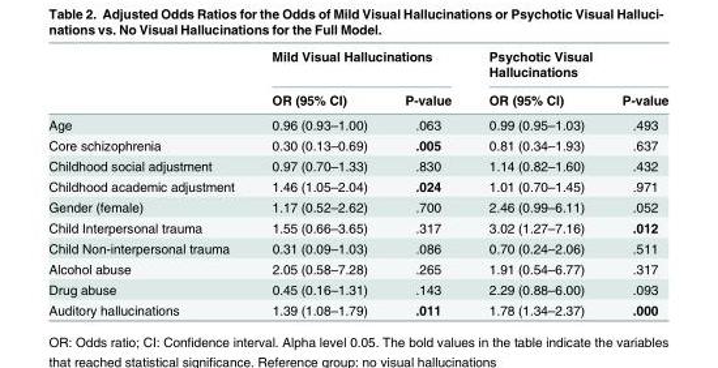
<table><thead><tr><td rowspan="2"></td><td colspan="2">Mild Visual Hallucinations</td><td colspan="2">Psychotic Visual Hallucinations</td></tr><tr><td>OR (95% CI)</td><td>P-value</td><td>OR (95% CI)</td><td>P-value</td></tr></thead><tbody><tr><td>Age</td><td>0.96 (0.93–1.00)</td><td>.063</td><td>0.99 (0.95–1.03)</td><td>.493</td></tr><tr><td>Core schizophrenia</td><td>0.30 (0.13–0.69)</td><td>.005</td><td>0.81 (0.34–1.93)</td><td>.637</td></tr><tr><td>Childhood social adjustment</td><td>0.97 (0.70–1.33)</td><td>.830</td><td>1.14 (0.82–1.60)</td><td>.432</td></tr><tr><td>Childhood academic adjustment</td><td>1.46 (1.05–2.04)</td><td>.024</td><td>1.01 (0.70–1.45)</td><td>.971</td></tr><tr><td>Gender (female)</td><td>1.17 (0.52–2.62)</td><td>.700</td><td>2.46 (0.99–6.11)</td><td>.052</td></tr><tr><td>Child Interpersonal trauma</td><td>1.55 (0.66–3.65)</td><td>.317</td><td>3.02 (1.27–7.16)</td><td>.012</td></tr><tr><td>Child Non-interpersonal trauma</td><td>0.31 (0.09–1.03)</td><td>.086</td><td>0.70 (0.24–2.06)</td><td>.511</td></tr><tr><td>Alcohol abuse</td><td>2.05 (0.58–7.28)</td><td>.265</td><td>1.91 (0.54–6.77)</td><td>.317</td></tr><tr><td>Drug abuse</td><td>0.45 (0.16–1.31)</td><td>.143</td><td>2.29 (0.88–6.00)</td><td>.093</td></tr><tr><td>Auditory hallucinations</td><td>1.39 (1.08–1.79)</td><td>.011</td><td>1.78 (1.34–2.37)</td><td>.000</td></tr></tbody></table>